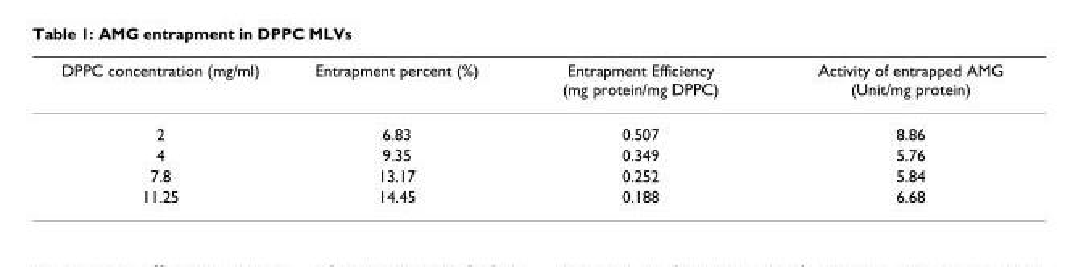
<table><thead><tr><td>DPPC concentration (mg/ml)</td><td>Entrapment percent (%)</td><td>Entrapment Efficiency (mg protein/mg DPPC)</td><td>Activity of entrapped AMG (Unit/mg protein)</td></tr></thead><tbody><tr><td>2</td><td>6.83</td><td>0.507</td><td>8.86</td></tr><tr><td>4</td><td>9.35</td><td>0.349</td><td>5.76</td></tr><tr><td>7.8</td><td>13.17</td><td>0.252</td><td>5.84</td></tr><tr><td>11.25</td><td>14.45</td><td>0.188</td><td>6.68</td></tr></tbody></table>